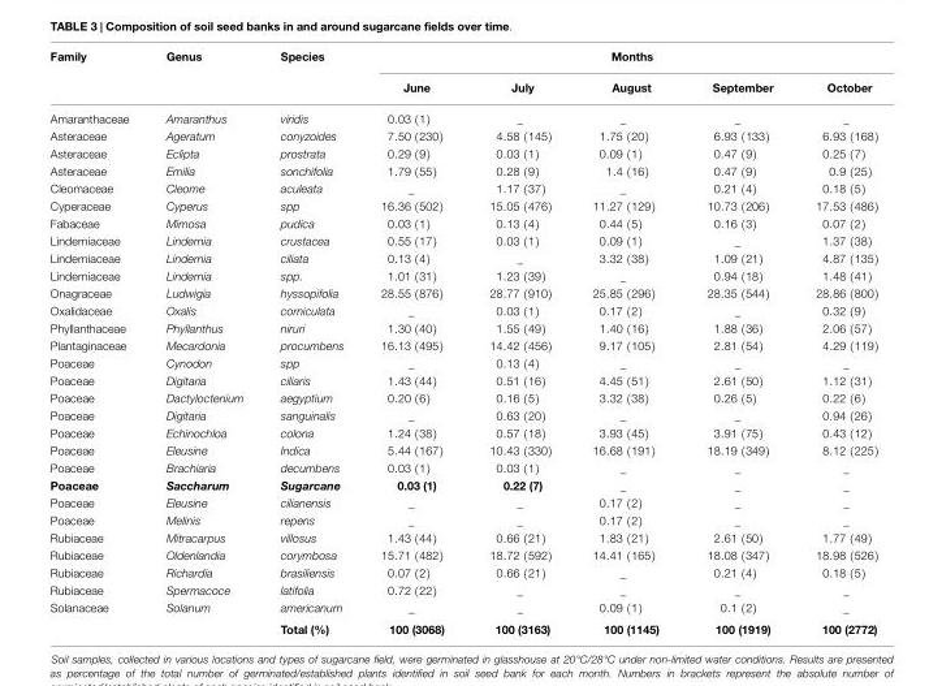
<table><thead><tr><td rowspan="2">Family</td><td rowspan="2">Genus</td><td rowspan="2">Species</td><td colspan="5">Months</td></tr><tr><td>June</td><td>July</td><td>August</td><td>September</td><td>October</td></tr></thead><tbody><tr><td>Amaranthaceae</td><td>Amaranthus</td><td>viridis</td><td>0.03 (1)</td><td>_</td><td>_</td><td>_</td><td>_</td></tr><tr><td>Asteraceae</td><td>Ageratum</td><td>conyzoides</td><td>7.50 (230)</td><td>4.58 (145)</td><td>1.75 (20)</td><td>6.93 (133)</td><td>6.93 (168)</td></tr><tr><td>Asteraceae</td><td>Eclipta</td><td>prostrata</td><td>0.29 (9)</td><td>0.03 (1)</td><td>0.09 (1)</td><td>0.47 (9)</td><td>0.25 (7)</td></tr><tr><td>Asteraceae</td><td>Emilia</td><td>sonchifolia</td><td>1.79 (55)</td><td>0.28 (9)</td><td>1.4 (16)</td><td>0.47 (9)</td><td>0.9 (25)</td></tr><tr><td>Cleomaceae</td><td>Cleome</td><td>aculeata</td><td>_</td><td>1.17 (37)</td><td>_</td><td>0.21 (4)</td><td>0.18 (5)</td></tr><tr><td>Cyperaceae</td><td>Cyperus</td><td>spp</td><td>16.36 (502)</td><td>15.05 (476)</td><td>11.27 (129)</td><td>10.73 (206)</td><td>17.53 (486)</td></tr><tr><td>Fabaceae</td><td>Mimosa</td><td>pudica</td><td>0.03 (1)</td><td>0.13 (4)</td><td>0.44 (5)</td><td>0.16 (3)</td><td>0.07 (2)</td></tr><tr><td>Linderniaceae</td><td>Lindernia</td><td>crustacea</td><td>0.55 (17)</td><td>0.03 (1)</td><td>0.09 (1)</td><td>_</td><td>1.37 (38)</td></tr><tr><td>Linderniaceae</td><td>Lindernia</td><td>ciliata</td><td>0.13 (4)</td><td>_</td><td>3.32 (38)</td><td>1.09 (21)</td><td>4.87 (135)</td></tr><tr><td>Linderniaceae</td><td>Lindernia</td><td>spp.</td><td>1.01 (31)</td><td>1.23 (39)</td><td>_</td><td>0.94 (18)</td><td>1.48 (41)</td></tr><tr><td>Onagraceae</td><td>Ludwigia</td><td>hyssopifolia</td><td>28.55 (876)</td><td>28.77 (910)</td><td>25.85 (296)</td><td>28.35 (544)</td><td>28.86 (800)</td></tr><tr><td>Oxalidaceae</td><td>Oxalis</td><td>corniculata</td><td>_</td><td>0.03 (1)</td><td>0.17 (2)</td><td>_</td><td>0.32 (9)</td></tr><tr><td>Phyllanthaceae</td><td>Phyllanthus</td><td>niruri</td><td>1.30 (40)</td><td>1.55 (49)</td><td>1.40 (16)</td><td>1.88 (36)</td><td>2.06 (57)</td></tr><tr><td>Plantaginaceae</td><td>Mecardonia</td><td>procumbens</td><td>16.13 (495)</td><td>14.42 (456)</td><td>9.17 (105)</td><td>2.81 (54)</td><td>4.29 (119)</td></tr><tr><td>Poaceae</td><td>Cynodon</td><td>spp</td><td>_</td><td>0.13 (4)</td><td>_</td><td>_</td><td>_</td></tr><tr><td>Poaceae</td><td>Digitaria</td><td>ciliaris</td><td>1.43 (44)</td><td>0.51 (16)</td><td>4.45 (51)</td><td>2.61 (50)</td><td>1.12 (31)</td></tr><tr><td>Poaceae</td><td>Dactyloctenium</td><td>aegyptium</td><td>0.20 (6)</td><td>0.16 (5)</td><td>3.32 (38)</td><td>0.26 (5)</td><td>0.22 (6)</td></tr><tr><td>Poaceae</td><td>Digitaria</td><td>sanguinalis</td><td>_</td><td>0.63 (20)</td><td>_</td><td>_</td><td>0.94 (26)</td></tr><tr><td>Poaceae</td><td>Echinochloa</td><td>colona</td><td>1.24 (38)</td><td>0.57 (18)</td><td>3.93 (45)</td><td>3.91 (75)</td><td>0.43 (12)</td></tr><tr><td>Poaceae</td><td>Eleusine</td><td>Indica</td><td>5.44 (167)</td><td>10.43 (330)</td><td>16.68 (191)</td><td>18.19 (349)</td><td>8.12 (225)</td></tr><tr><td>Poaceae</td><td>Brachiaria</td><td>decumbens</td><td>0.03 (1)</td><td>0.03 (1)</td><td>_</td><td>_</td><td>_</td></tr><tr><td>Poaceae</td><td>Saccharum</td><td>Sugarcane</td><td>0.03 (1)</td><td>0.22 (7)</td><td>_</td><td>_</td><td>_</td></tr><tr><td>Poaceae</td><td>Eleusine</td><td>cilianensis</td><td>_</td><td>_</td><td>0.17 (2)</td><td>_</td><td>_</td></tr><tr><td>Poaceae</td><td>Melinis</td><td>repens</td><td>_</td><td>_</td><td>0.17 (2)</td><td>_</td><td>_</td></tr><tr><td>Rubiaceae</td><td>Mitracarpus</td><td>villosus</td><td>1.43 (44)</td><td>0.66 (21)</td><td>1.83 (21)</td><td>2.61 (50)</td><td>1.77 (49)</td></tr><tr><td>Rubiaceae</td><td>Oldenlandia</td><td>corymbosa</td><td>15.71 (482)</td><td>18.72 (592)</td><td>14.41 (165)</td><td>18.08 (347)</td><td>18.98 (526)</td></tr><tr><td>Rubiaceae</td><td>Richardia</td><td>brasiliensis</td><td>0.07 (2)</td><td>0.66 (21)</td><td>_</td><td>0.21 (4)</td><td>0.18 (5)</td></tr><tr><td>Rubiaceae</td><td>Spermacoce</td><td>latifolia</td><td>0.72 (22)</td><td>_</td><td>_</td><td>_</td><td>_</td></tr><tr><td rowspan="2">Solanaceae</td><td>Solanum</td><td>americanum</td><td>_</td><td>_</td><td>0.09 (1)</td><td>0.1 (2)</td><td>_</td></tr><tr><td></td><td>Total (%)</td><td>100 (3068)</td><td>100 (3163)</td><td>100 (1145)</td><td>100 (1919)</td><td>100 (2772)</td></tr></tbody></table>